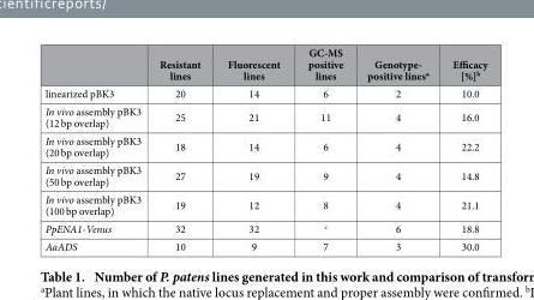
<table><thead><tr><td></td><td>Resistant lines</td><td>Fluorescent lines</td><td>GC-MS positive lines</td><td>Genotype- positive lines<sup>a</sup></td><td>Efficacy [%]<sup>b</sup></td></tr></thead><tbody><tr><td>linearized pBK3</td><td>20</td><td>14</td><td>6</td><td>2</td><td>10.0</td></tr><tr><td>In vivo assembly pBK3 (12 bp overlap)</td><td>25</td><td>21</td><td>11</td><td>4</td><td>16.0</td></tr><tr><td>In vivo assembly pBK3 (20 bp overlap)</td><td>18</td><td>14</td><td>6</td><td>4</td><td>22.2</td></tr><tr><td>In vivo assembly pBK3 (50 bp overlap)</td><td>27</td><td>19</td><td>9</td><td>4</td><td>14.8</td></tr><tr><td>In vivo assembly pBK3 (100 bp overlap)</td><td>19</td><td>12</td><td>8</td><td>4</td><td>21.1</td></tr><tr><td>PpENA1-Venus</td><td>32</td><td>32</td><td>c</td><td>6</td><td>18.8</td></tr><tr><td>AaADS</td><td>10</td><td>9</td><td>7</td><td>3</td><td>30.0</td></tr></tbody></table>